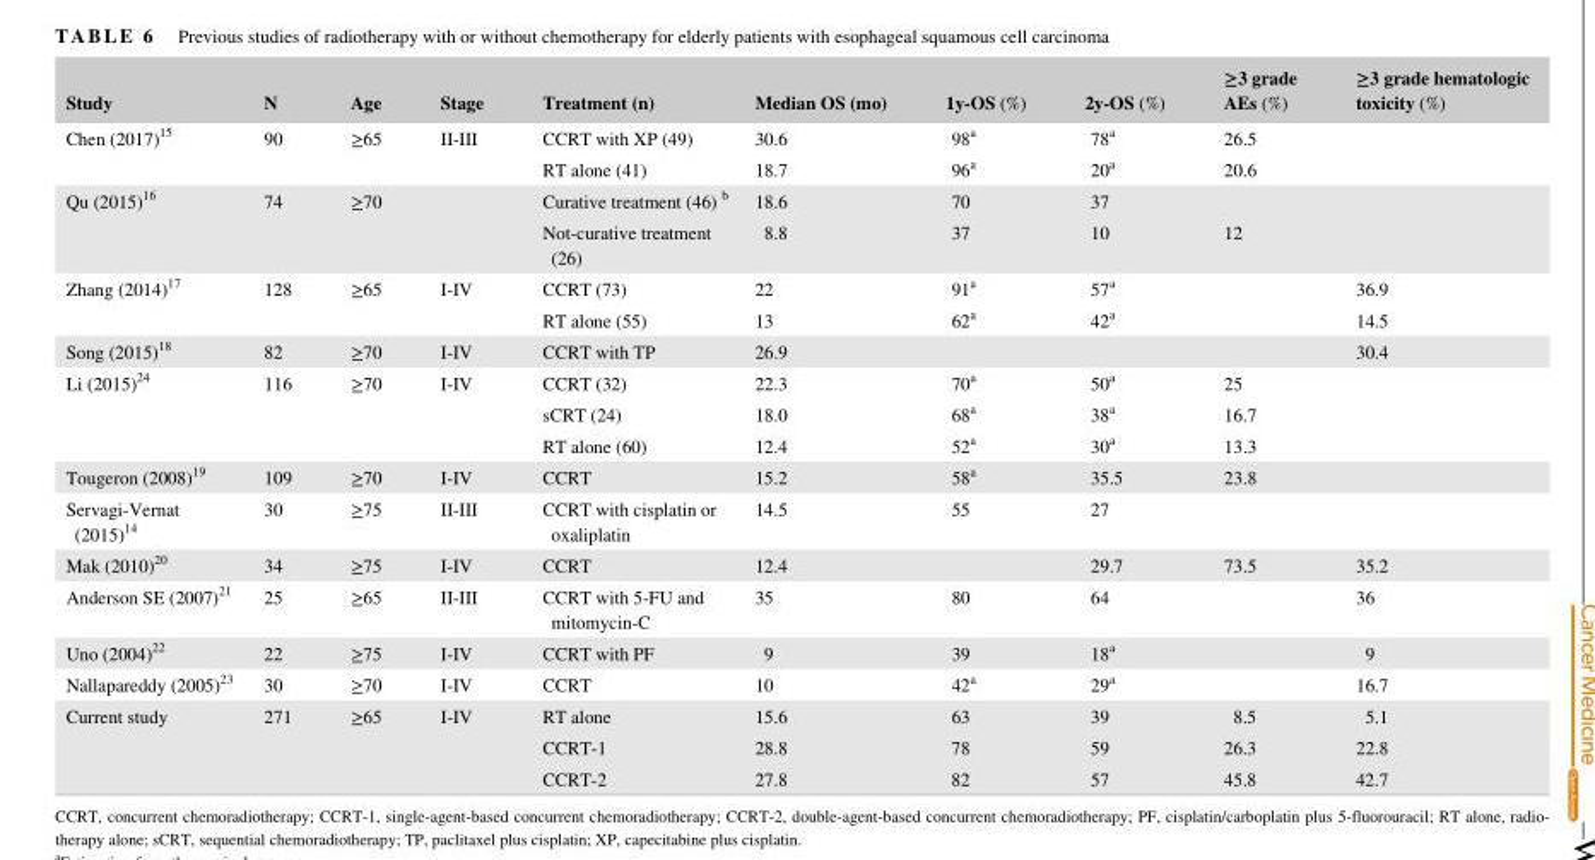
<table><thead><tr><td>Study</td><td>N</td><td>Age</td><td>Stage</td><td>Treatment (n)</td><td>Median OS (mo)</td><td>1y‐OS (%)</td><td>2y‐OS (%)</td><td>≥3 grade AEs (%)</td><td>≥3 grade hematologic toxicity (%)</td></tr></thead><tbody><tr><td rowspan="2">Chen (2017)<sup>15</sup></td><td>90</td><td>≥65</td><td>II‐III</td><td>CCRT with XP (49)</td><td>30.6</td><td>98<sup>a</sup></td><td>78<sup>a</sup></td><td>26.5</td><td></td></tr><tr><td></td><td></td><td></td><td>RT alone (41)</td><td>18.7</td><td>96<sup>a</sup></td><td>20<sup>a</sup></td><td>20.6</td><td></td></tr><tr><td rowspan="2">Qu (2015)<sup>16</sup></td><td>74</td><td>≥70</td><td></td><td>Curative treatment (46) b</td><td>18.6</td><td>70</td><td>37</td><td></td><td></td></tr><tr><td></td><td></td><td></td><td>Not‐curative treatment (26)</td><td>8.8</td><td>37</td><td>10</td><td>12</td><td></td></tr><tr><td rowspan="2">Zhang (2014)<sup>17</sup></td><td>128</td><td>≥65</td><td>I‐IV</td><td>CCRT (73)</td><td>22</td><td>91<sup>a</sup></td><td>57<sup>a</sup></td><td></td><td>36.9</td></tr><tr><td></td><td></td><td></td><td>RT alone (55)</td><td>13</td><td>62<sup>a</sup></td><td>42<sup>a</sup></td><td></td><td>14.5</td></tr><tr><td>Song (2015)<sup>18</sup></td><td>82</td><td>≥70</td><td>I‐IV</td><td>CCRT with TP</td><td>26.9</td><td></td><td></td><td></td><td>30.4</td></tr><tr><td rowspan="3">Li (2015)<sup>24</sup></td><td>116</td><td>≥70</td><td>I‐IV</td><td>CCRT (32)</td><td>22.3</td><td>70<sup>a</sup></td><td>50<sup>a</sup></td><td>25</td><td></td></tr><tr><td></td><td></td><td></td><td>sCRT (24)</td><td>18.0</td><td>68<sup>a</sup></td><td>38<sup>a</sup></td><td>16.7</td><td></td></tr><tr><td></td><td></td><td></td><td>RT alone (60)</td><td>12.4</td><td>52<sup>a</sup></td><td>30<sup>a</sup></td><td>13.3</td><td></td></tr><tr><td>Tougeron (2008)<sup>19</sup></td><td>109</td><td>≥70</td><td>I‐IV</td><td>CCRT</td><td>15.2</td><td>58<sup>a</sup></td><td>35.5</td><td>23.8</td><td></td></tr><tr><td>Servagi‐Vernat (2015)<sup>14</sup></td><td>30</td><td>≥75</td><td>II‐III</td><td>CCRT with cisplatin or oxaliplatin</td><td>14.5</td><td>55</td><td>27</td><td></td><td></td></tr><tr><td>Mak (2010)<sup>20</sup></td><td>34</td><td>≥75</td><td>I‐IV</td><td>CCRT</td><td>12.4</td><td></td><td>29.7</td><td>73.5</td><td>35.2</td></tr><tr><td>Anderson SE (2007)<sup>21</sup></td><td>25</td><td>≥65</td><td>II‐III</td><td>CCRT with 5‐FU and mitomycin‐C</td><td>35</td><td>80</td><td>64</td><td></td><td>36</td></tr><tr><td>Uno (2004)<sup>22</sup></td><td>22</td><td>≥75</td><td>I‐IV</td><td>CCRT with PF</td><td>9</td><td>39</td><td>18<sup>a</sup></td><td></td><td>9</td></tr><tr><td>Nallapareddy (2005)<sup>23</sup></td><td>30</td><td>≥70</td><td>I‐IV</td><td>CCRT</td><td>10</td><td>42<sup>a</sup></td><td>29<sup>a</sup></td><td></td><td>16.7</td></tr><tr><td rowspan="3">Current study</td><td rowspan="3">271</td><td rowspan="3">≥65</td><td rowspan="3">I‐IV</td><td>RT alone</td><td>15.6</td><td>63</td><td>39</td><td>8.5</td><td>5.1</td></tr><tr><td>CCRT‐1</td><td>28.8</td><td>78</td><td>59</td><td>26.3</td><td>22.8</td></tr><tr><td>CCRT‐2</td><td>27.8</td><td>82</td><td>57</td><td>45.8</td><td>42.7</td></tr></tbody></table>